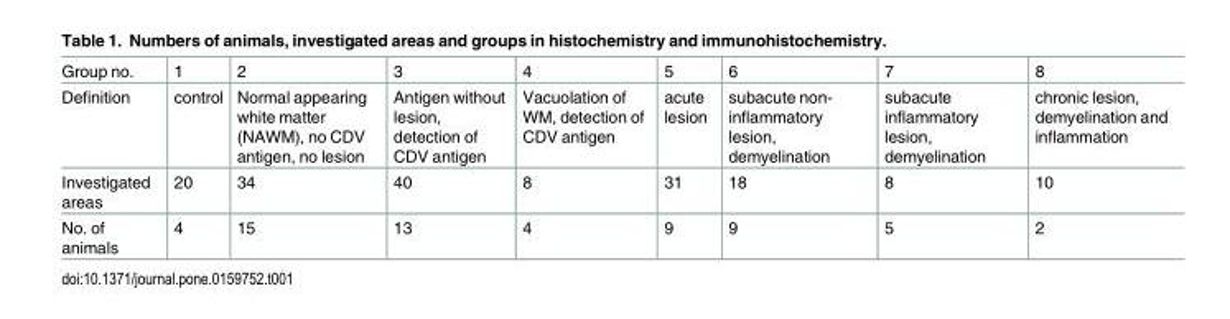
<table><tbody><tr><td>Group no.</td><td>1</td><td>2</td><td>3</td><td>4</td><td>5</td><td>6</td><td>7</td><td>8</td></tr><tr><td>Definition</td><td>control</td><td>Normal appearing white matter (NAWM), no CDV antigen, no lesion</td><td>Antigen without lesion, detection of CDV antigen</td><td>Vacuolation of WM, detection of CDV antigen</td><td>acute lesion</td><td>subacute non- inflammatory lesion, demyelination</td><td>subacute inflammatory lesion, demyelination</td><td>chronic lesion, demyelination and inflammation</td></tr><tr><td>Investigated areas</td><td>20</td><td>34</td><td>40</td><td>8</td><td>31</td><td>18</td><td>8</td><td>10</td></tr><tr><td>No. of animals</td><td>4</td><td>15</td><td>13</td><td>4</td><td>9</td><td>9</td><td>5</td><td>2</td></tr></tbody></table>